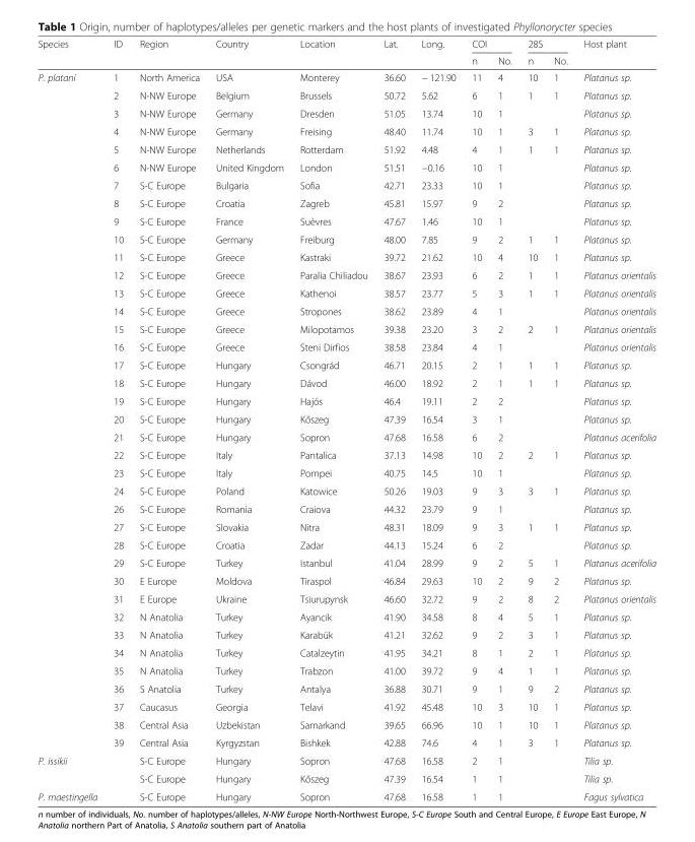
<table><thead><tr><td rowspan="2">Species</td><td rowspan="2">ID</td><td rowspan="2">Region</td><td rowspan="2">Country</td><td rowspan="2">Location</td><td rowspan="2">Lat.</td><td rowspan="2">Long.</td><td colspan="2">COI</td><td colspan="2">28S</td><td rowspan="2">Host plant</td></tr><tr><td>n</td><td>No.</td><td>n</td><td>No.</td></tr></thead><tbody><tr><td rowspan="38">P. platani</td><td>1</td><td>North America</td><td>USA</td><td>Monterey</td><td>36.60</td><td>− 121.90</td><td>11</td><td>4</td><td>10</td><td>1</td><td>Platanus sp.</td></tr><tr><td>2</td><td>N-NW Europe</td><td>Belgium</td><td>Brussels</td><td>50.72</td><td>5.62</td><td>6</td><td>1</td><td>1</td><td>1</td><td>Platanus sp.</td></tr><tr><td>3</td><td>N-NW Europe</td><td>Germany</td><td>Dresden</td><td>51.05</td><td>13.74</td><td>10</td><td>1</td><td></td><td></td><td>Platanus sp.</td></tr><tr><td>4</td><td>N-NW Europe</td><td>Germany</td><td>Freising</td><td>48.40</td><td>11.74</td><td>10</td><td>1</td><td>3</td><td>1</td><td>Platanus sp.</td></tr><tr><td>5</td><td>N-NW Europe</td><td>Netherlands</td><td>Rotterdam</td><td>51.92</td><td>4.48</td><td>4</td><td>1</td><td>1</td><td>1</td><td>Platanus sp.</td></tr><tr><td>6</td><td>N-NW Europe</td><td>United Kingdom</td><td>London</td><td>51.51</td><td>−0.16</td><td>10</td><td>1</td><td></td><td></td><td>Platanus sp.</td></tr><tr><td>7</td><td>S-C Europe</td><td>Bulgaria</td><td>Sofia</td><td>42.71</td><td>23.33</td><td>10</td><td>1</td><td></td><td></td><td>Platanus sp.</td></tr><tr><td>8</td><td>S-C Europe</td><td>Croatia</td><td>Zagreb</td><td>45.81</td><td>15.97</td><td>9</td><td>2</td><td></td><td></td><td>Platanus sp.</td></tr><tr><td>9</td><td>S-C Europe</td><td>France</td><td>Suèvres</td><td>47.67</td><td>1.46</td><td>10</td><td>1</td><td></td><td></td><td>Platanus sp.</td></tr><tr><td>10</td><td>S-C Europe</td><td>Germany</td><td>Freiburg</td><td>48.00</td><td>7.85</td><td>9</td><td>2</td><td>1</td><td>1</td><td>Platanus sp.</td></tr><tr><td>11</td><td>S-C Europe</td><td>Greece</td><td>Kastraki</td><td>39.72</td><td>21.62</td><td>10</td><td>4</td><td>10</td><td>1</td><td>Platanus sp.</td></tr><tr><td>12</td><td>S-C Europe</td><td>Greece</td><td>Paralia Chiliadou</td><td>38.67</td><td>23.93</td><td>6</td><td>2</td><td>1</td><td>1</td><td>Platanus orientalis</td></tr><tr><td>13</td><td>S-C Europe</td><td>Greece</td><td>Kathenoi</td><td>38.57</td><td>23.77</td><td>5</td><td>3</td><td>1</td><td>1</td><td>Platanus orientalis</td></tr><tr><td>14</td><td>S-C Europe</td><td>Greece</td><td>Stropones</td><td>38.62</td><td>23.89</td><td>4</td><td>1</td><td></td><td></td><td>Platanus orientalis</td></tr><tr><td>15</td><td>S-C Europe</td><td>Greece</td><td>Milopotamos</td><td>39.38</td><td>23.20</td><td>3</td><td>2</td><td>2</td><td>1</td><td>Platanus orientalis</td></tr><tr><td>16</td><td>S-C Europe</td><td>Greece</td><td>Steni Dirfios</td><td>38.58</td><td>23.84</td><td>4</td><td>1</td><td></td><td></td><td>Platanus orientalis</td></tr><tr><td>17</td><td>S-C Europe</td><td>Hungary</td><td>Csongrád</td><td>46.71</td><td>20.15</td><td>2</td><td>1</td><td>1</td><td>1</td><td>Platanus sp.</td></tr><tr><td>18</td><td>S-C Europe</td><td>Hungary</td><td>Dávod</td><td>46.00</td><td>18.92</td><td>2</td><td>1</td><td>1</td><td>1</td><td>Platanus sp.</td></tr><tr><td>19</td><td>S-C Europe</td><td>Hungary</td><td>Hajós</td><td>46.4</td><td>19.11</td><td>2</td><td>2</td><td></td><td></td><td>Platanus sp.</td></tr><tr><td>20</td><td>S-C Europe</td><td>Hungary</td><td>Kőszeg</td><td>47.39</td><td>16.54</td><td>3</td><td>1</td><td></td><td></td><td>Platanus sp.</td></tr><tr><td>21</td><td>S-C Europe</td><td>Hungary</td><td>Sopron</td><td>47.68</td><td>16.58</td><td>6</td><td>2</td><td></td><td></td><td>Platanus acerifolia</td></tr><tr><td>22</td><td>S-C Europe</td><td>Italy</td><td>Pantalica</td><td>37.13</td><td>14.98</td><td>10</td><td>2</td><td>2</td><td>1</td><td>Platanus sp.</td></tr><tr><td>23</td><td>S-C Europe</td><td>Italy</td><td>Pompei</td><td>40.75</td><td>14.5</td><td>10</td><td>1</td><td></td><td></td><td>Platanus sp.</td></tr><tr><td>24</td><td>S-C Europe</td><td>Poland</td><td>Katowice</td><td>50.26</td><td>19.03</td><td>9</td><td>3</td><td>3</td><td>1</td><td>Platanus sp.</td></tr><tr><td>26</td><td>S-C Europe</td><td>Romania</td><td>Craiova</td><td>44.32</td><td>23.79</td><td>9</td><td>1</td><td></td><td></td><td>Platanus sp.</td></tr><tr><td>27</td><td>S-C Europe</td><td>Slovakia</td><td>Nitra</td><td>48.31</td><td>18.09</td><td>9</td><td>3</td><td>1</td><td>1</td><td>Platanus sp.</td></tr><tr><td>28</td><td>S-C Europe</td><td>Croatia</td><td>Zadar</td><td>44.13</td><td>15.24</td><td>6</td><td>2</td><td></td><td></td><td>Platanus sp.</td></tr><tr><td>29</td><td>S-C Europe</td><td>Turkey</td><td>Istanbul</td><td>41.04</td><td>28.99</td><td>9</td><td>2</td><td>5</td><td>1</td><td>Platanus acerifolia</td></tr><tr><td>30</td><td>E Europe</td><td>Moldova</td><td>Tiraspol</td><td>46.84</td><td>29.63</td><td>10</td><td>2</td><td>9</td><td>2</td><td>Platanus sp.</td></tr><tr><td>31</td><td>E Europe</td><td>Ukraine</td><td>Tsiurupynsk</td><td>46.60</td><td>32.72</td><td>9</td><td>2</td><td>8</td><td>2</td><td>Platanus orientalis</td></tr><tr><td>32</td><td>N Anatolia</td><td>Turkey</td><td>Ayancik</td><td>41.90</td><td>34.58</td><td>8</td><td>4</td><td>5</td><td>1</td><td>Platanus sp.</td></tr><tr><td>33</td><td>N Anatolia</td><td>Turkey</td><td>Karabük</td><td>41.21</td><td>32.62</td><td>9</td><td>2</td><td>3</td><td>1</td><td>Platanus sp.</td></tr><tr><td>34</td><td>N Anatolia</td><td>Turkey</td><td>Catalzeytin</td><td>41.95</td><td>34.21</td><td>8</td><td>1</td><td>2</td><td>1</td><td>Platanus sp.</td></tr><tr><td>35</td><td>N Anatolia</td><td>Turkey</td><td>Trabzon</td><td>41.00</td><td>39.72</td><td>9</td><td>4</td><td>1</td><td>1</td><td>Platanus sp.</td></tr><tr><td>36</td><td>S Anatolia</td><td>Turkey</td><td>Antalya</td><td>36.88</td><td>30.71</td><td>9</td><td>1</td><td>9</td><td>2</td><td>Platanus sp.</td></tr><tr><td>37</td><td>Caucasus</td><td>Georgia</td><td>Telavi</td><td>41.92</td><td>45.48</td><td>10</td><td>3</td><td>10</td><td>1</td><td>Platanus sp.</td></tr><tr><td>38</td><td>Central Asia</td><td>Uzbekistan</td><td>Samarkand</td><td>39.65</td><td>66.96</td><td>10</td><td>1</td><td>10</td><td>1</td><td>Platanus sp.</td></tr><tr><td>39</td><td>Central Asia</td><td>Kyrgyzstan</td><td>Bishkek</td><td>42.88</td><td>74.6</td><td>4</td><td>1</td><td>3</td><td>1</td><td>Platanus sp.</td></tr><tr><td rowspan="2">P. issikii</td><td></td><td>S-C Europe</td><td>Hungary</td><td>Sopron</td><td>47.68</td><td>16.58</td><td>2</td><td>1</td><td></td><td></td><td>Tilia sp.</td></tr><tr><td></td><td>S-C Europe</td><td>Hungary</td><td>Kőszeg</td><td>47.39</td><td>16.54</td><td>1</td><td>1</td><td></td><td></td><td>Tilia sp.</td></tr><tr><td>P. maestingella</td><td></td><td>S-C Europe</td><td>Hungary</td><td>Sopron</td><td>47.68</td><td>16.58</td><td>1</td><td>1</td><td></td><td></td><td>Fagus sylvatica</td></tr></tbody></table>